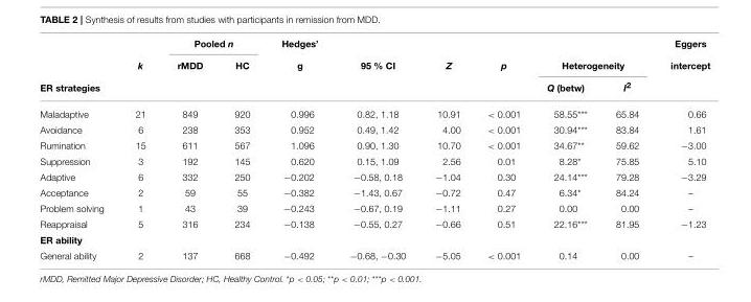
<table><thead><tr><td rowspan="3">ER strategies</td><td rowspan="3">k</td><td colspan="2">Pooled n</td><td rowspan="3">Hedges’ g</td><td rowspan="3">95 % CI</td><td rowspan="3">Z</td><td rowspan="3">p</td><td></td><td></td><td rowspan="3">Eggers intercept</td></tr><tr><td rowspan="2">rMDD</td><td rowspan="2">HC</td><td colspan="2">Heterogeneity</td></tr><tr><td>Q (betw)</td><td>I<sup>2</sup></td></tr></thead><tbody><tr><td>Maladaptive</td><td>21</td><td>849</td><td>920</td><td>0.996</td><td>0.82, 1.18</td><td>10.91</td><td>&lt; 0.001</td><td>58.55***</td><td>65.84</td><td>0.66</td></tr><tr><td>Avoidance</td><td>6</td><td>238</td><td>353</td><td>0.952</td><td>0.49, 1.42</td><td>4.00</td><td>&lt; 0.001</td><td>30.94***</td><td>83.84</td><td>1.61</td></tr><tr><td>Rumination</td><td>15</td><td>611</td><td>567</td><td>1.096</td><td>0.90, 1.30</td><td>10.70</td><td>&lt; 0.001</td><td>34.67**</td><td>59.62</td><td>−3.00</td></tr><tr><td>Suppression</td><td>3</td><td>192</td><td>145</td><td>0.620</td><td>0.15, 1.09</td><td>2.56</td><td>0.01</td><td>8.28*</td><td>75.85</td><td>5.10</td></tr><tr><td>Adaptive</td><td>6</td><td>332</td><td>250</td><td>−0.202</td><td>−0.58, 0.18</td><td>−1.04</td><td>0.30</td><td>24.14***</td><td>79.28</td><td>−3.29</td></tr><tr><td>Acceptance</td><td>2</td><td>59</td><td>55</td><td>−0.382</td><td>−1.43, 0.67</td><td>−0.72</td><td>0.47</td><td>6.34*</td><td>84.24</td><td>–</td></tr><tr><td>Problem solving</td><td>1</td><td>43</td><td>39</td><td>−0.243</td><td>−0.67, 0.19</td><td>−1.11</td><td>0.27</td><td>0.00</td><td>0.00</td><td>–</td></tr><tr><td>Reappraisal</td><td>5</td><td>316</td><td>234</td><td>−0.138</td><td>−0.55, 0.27</td><td>−0.66</td><td>0.51</td><td>22.16***</td><td>81.95</td><td>−1.23</td></tr><tr><td colspan="11">ER ability</td></tr><tr><td>General ability</td><td>2</td><td>137</td><td>668</td><td>−0.492</td><td>−0.68, −0.30</td><td>−5.05</td><td>&lt; 0.001</td><td>0.14</td><td>0.00</td><td>–</td></tr></tbody></table>